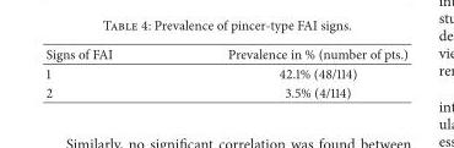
<table><thead><tr><td>Signs of FAI</td><td>Prevalence in % (number of pts.)</td></tr></thead><tbody><tr><td>1</td><td>42.1% (48/114)</td></tr><tr><td>2</td><td>3.5% (4/114)</td></tr></tbody></table>